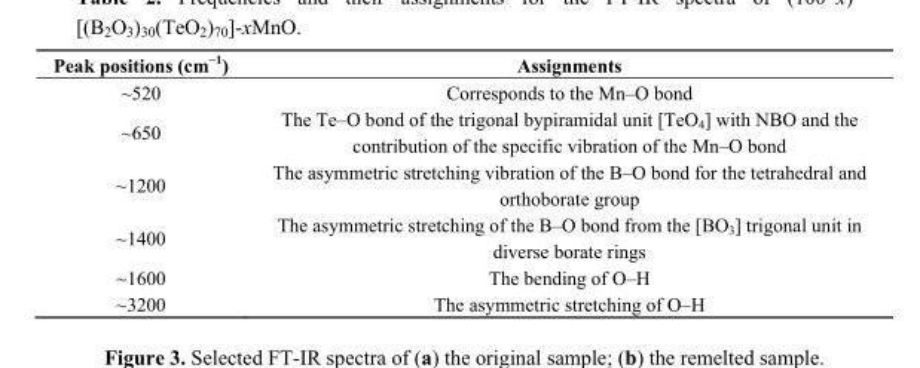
<table><thead><tr><td>Peak positions (cm<sup>−1</sup>)</td><td>Assignments</td></tr></thead><tbody><tr><td>~520</td><td>Corresponds to the Mn–O bond</td></tr><tr><td>~650</td><td>The Te–O bond of the trigonal bypiramidal unit [TeO<sub>4</sub>] with NBO and the contribution of the specific vibration of the Mn–O bond</td></tr><tr><td>~1200</td><td>The asymmetric stretching vibration of the B–O bond for the tetrahedral and orthoborate group</td></tr><tr><td>~1400</td><td>The asymmetric stretching of the B–O bond from the [BO<sub>3</sub>] trigonal unit in diverse borate rings</td></tr><tr><td>~1600</td><td>The bending of O–H</td></tr><tr><td>~3200</td><td>The asymmetric stretching of O–H</td></tr></tbody></table>